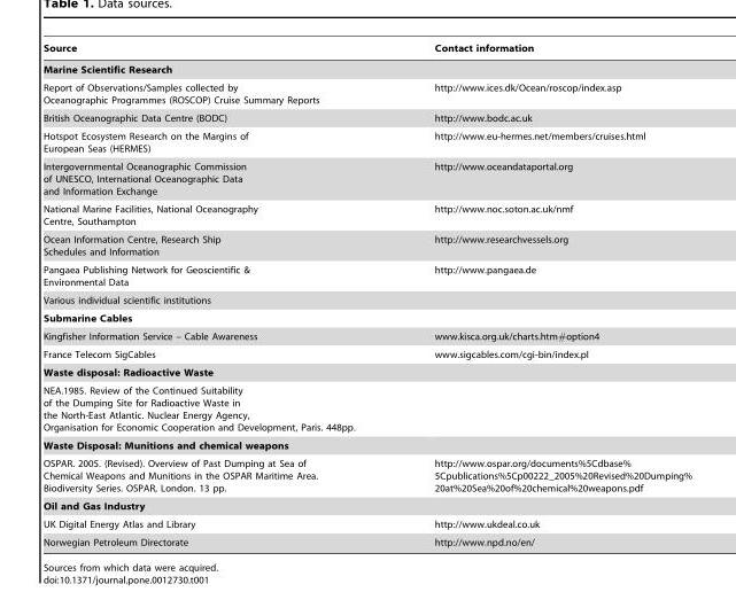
<table><thead><tr><td>Source</td><td>Contact information</td></tr></thead><tbody><tr><td colspan="2">Marine Scientific Research</td></tr><tr><td>Report of Observations/Samples collected by Oceanographic Programmes (ROSCOP) Cruise Summary Reports</td><td>http://www.ices.dk/Ocean/roscop/index.asp</td></tr><tr><td>British Oceanographic Data Centre (BODC)</td><td>http://www.bodc.ac.uk</td></tr><tr><td>Hotspot Ecosystem Research on the Margins of European Seas (HERMES)</td><td>http://www.eu-hermes.net/members/cruises.html</td></tr><tr><td>Intergovernmental Oceanographic Commission of UNESCO, International Oceanographic Data and Information Exchange</td><td>http://www.oceandataportal.org</td></tr><tr><td>National Marine Facilities, National Oceanography Centre, Southampton</td><td>http://www.noc.soton.ac.uk/nmf</td></tr><tr><td>Ocean Information Centre, Research Ship Schedules and Information</td><td>http://www.researchvessels.org</td></tr><tr><td>Pangaea Publishing Network for Geoscientific &amp; Environmental Data</td><td>http://www.pangaea.de</td></tr><tr><td colspan="2">Various individual scientific institutions</td></tr><tr><td colspan="2">Submarine Cables</td></tr><tr><td>Kingfisher Information Service – Cable Awareness</td><td>www.kisca.org.uk/charts.htm#option4</td></tr><tr><td>France Telecom SigCables</td><td>www.sigcables.com/cgi-bin/index.pl</td></tr><tr><td colspan="2">Waste disposal: Radioactive Waste</td></tr><tr><td colspan="2">NEA.1985. Review of the Continued Suitability of the Dumping Site for Radioactive Waste in the North-East Atlantic. Nuclear Energy Agency, Organisation for Economic Cooperation and Development, Paris. 448pp.</td></tr><tr><td colspan="2">Waste Disposal: Munitions and chemical weapons</td></tr><tr><td>OSPAR. 2005. (Revised). Overview of Past Dumping at Sea of Chemical Weapons and Munitions in the OSPAR Maritime Area. Biodiversity Series. OSPAR, London. 13 pp.</td><td>http://www.ospar.org/documents%5Cdbase% 5Cpublications%5Cp00222_2005%20Revised%20Dumping% 20at%20Sea%20of%20chemical%20weapons.pdf</td></tr><tr><td colspan="2">Oil and Gas Industry</td></tr><tr><td>UK Digital Energy Atlas and Library</td><td>http://www.ukdeal.co.uk</td></tr><tr><td>Norwegian Petroleum Directorate</td><td>http://www.npd.no/en/</td></tr></tbody></table>